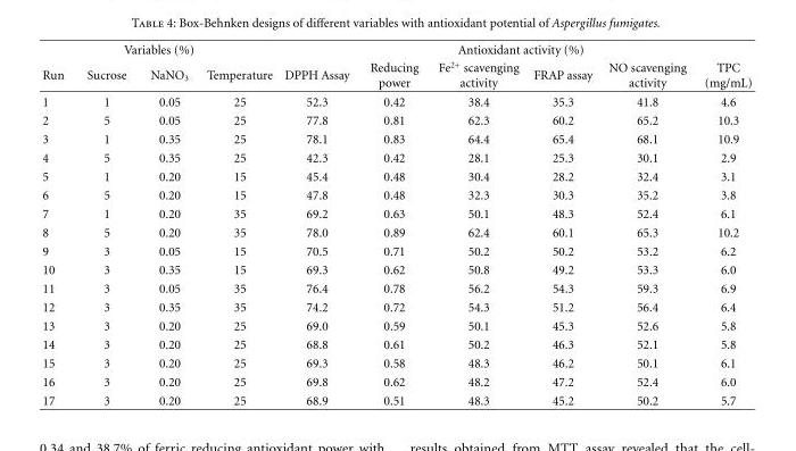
<table><thead><tr><td colspan="4">Variables (%)</td><td colspan="6">Antioxidant activity (%)</td></tr><tr><td>Run</td><td>Sucrose</td><td>NaNO<sub>3</sub></td><td>Temperature</td><td>DPPH Assay</td><td>Reducing power</td><td>Fe<sup>2+</sup> scavenging activity</td><td>FRAP assay</td><td>NO scavenging activity</td><td>TPC (mg/mL)</td></tr></thead><tbody><tr><td>1</td><td>1</td><td>0.05</td><td>25</td><td>52.3</td><td>0.42</td><td>38.4</td><td>35.3</td><td>41.8</td><td>4.6</td></tr><tr><td>2</td><td>5</td><td>0.05</td><td>25</td><td>77.8</td><td>0.81</td><td>62.3</td><td>60.2</td><td>65.2</td><td>10.3</td></tr><tr><td>3</td><td>1</td><td>0.35</td><td>25</td><td>78.1</td><td>0.83</td><td>64.4</td><td>65.4</td><td>68.1</td><td>10.9</td></tr><tr><td>4</td><td>5</td><td>0.35</td><td>25</td><td>42.3</td><td>0.42</td><td>28.1</td><td>25.3</td><td>30.1</td><td>2.9</td></tr><tr><td>5</td><td>1</td><td>0.20</td><td>15</td><td>45.4</td><td>0.48</td><td>30.4</td><td>28.2</td><td>32.4</td><td>3.1</td></tr><tr><td>6</td><td>5</td><td>0.20</td><td>15</td><td>47.8</td><td>0.48</td><td>32.3</td><td>30.3</td><td>35.2</td><td>3.8</td></tr><tr><td>7</td><td>1</td><td>0.20</td><td>35</td><td>69.2</td><td>0.63</td><td>50.1</td><td>48.3</td><td>52.4</td><td>6.1</td></tr><tr><td>8</td><td>5</td><td>0.20</td><td>35</td><td>78.0</td><td>0.89</td><td>62.4</td><td>60.1</td><td>65.3</td><td>10.2</td></tr><tr><td>9</td><td>3</td><td>0.05</td><td>15</td><td>70.5</td><td>0.71</td><td>50.2</td><td>50.2</td><td>53.2</td><td>6.2</td></tr><tr><td>10</td><td>3</td><td>0.35</td><td>15</td><td>69.3</td><td>0.62</td><td>50.8</td><td>49.2</td><td>53.3</td><td>6.0</td></tr><tr><td>11</td><td>3</td><td>0.05</td><td>35</td><td>76.4</td><td>0.78</td><td>56.2</td><td>54.3</td><td>59.3</td><td>6.9</td></tr><tr><td>12</td><td>3</td><td>0.35</td><td>35</td><td>74.2</td><td>0.72</td><td>54.3</td><td>51.2</td><td>56.4</td><td>6.4</td></tr><tr><td>13</td><td>3</td><td>0.20</td><td>25</td><td>69.0</td><td>0.59</td><td>50.1</td><td>45.3</td><td>52.6</td><td>5.8</td></tr><tr><td>14</td><td>3</td><td>0.20</td><td>25</td><td>68.8</td><td>0.61</td><td>50.2</td><td>46.3</td><td>52.1</td><td>5.8</td></tr><tr><td>15</td><td>3</td><td>0.20</td><td>25</td><td>69.3</td><td>0.58</td><td>48.3</td><td>46.2</td><td>50.1</td><td>6.1</td></tr><tr><td>16</td><td>3</td><td>0.20</td><td>25</td><td>69.8</td><td>0.62</td><td>48.2</td><td>47.2</td><td>52.4</td><td>6.0</td></tr><tr><td>17</td><td>3</td><td>0.20</td><td>25</td><td>68.9</td><td>0.51</td><td>48.3</td><td>45.2</td><td>50.2</td><td>5.7</td></tr></tbody></table>